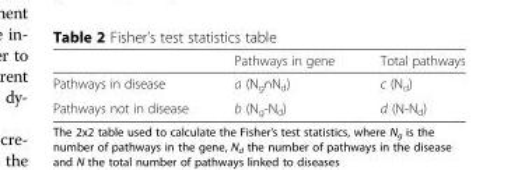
<table><thead><tr><td></td><td>Pathways in gene</td><td>Total pathways</td></tr></thead><tbody><tr><td>Pathways in disease</td><td>a (N<sub>g</sub>∩N<sub>d</sub>)</td><td>c (N<sub>d</sub>)</td></tr><tr><td>Pathways not in disease</td><td>b (N<sub>g</sub>-N<sub>d</sub>)</td><td>d (N-N<sub>d</sub>)</td></tr></tbody></table>